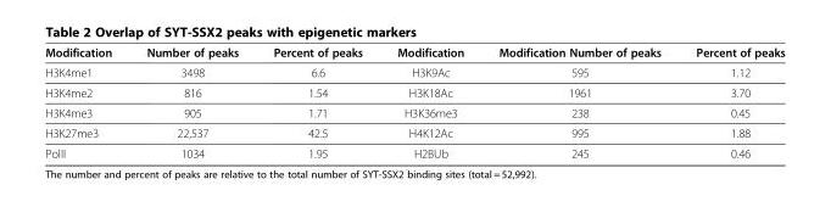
<table><thead><tr><td>Modification</td><td>Number of peaks</td><td>Percent of peaks</td><td>Modification</td><td>Modification Number of peaks</td><td>Percent of peaks</td></tr></thead><tbody><tr><td>H3K4me1</td><td>3498</td><td>6.6</td><td>H3K9Ac</td><td>595</td><td>1.12</td></tr><tr><td>H3K4me2</td><td>816</td><td>1.54</td><td>H3K18Ac</td><td>1961</td><td>3.70</td></tr><tr><td>H3K4me3</td><td>905</td><td>1.71</td><td>H3K36me3</td><td>238</td><td>0.45</td></tr><tr><td>H3K27me3</td><td>22,537</td><td>42.5</td><td>H4K12Ac</td><td>995</td><td>1.88</td></tr><tr><td>PolII</td><td>1034</td><td>1.95</td><td>H2BUb</td><td>245</td><td>0.46</td></tr></tbody></table>